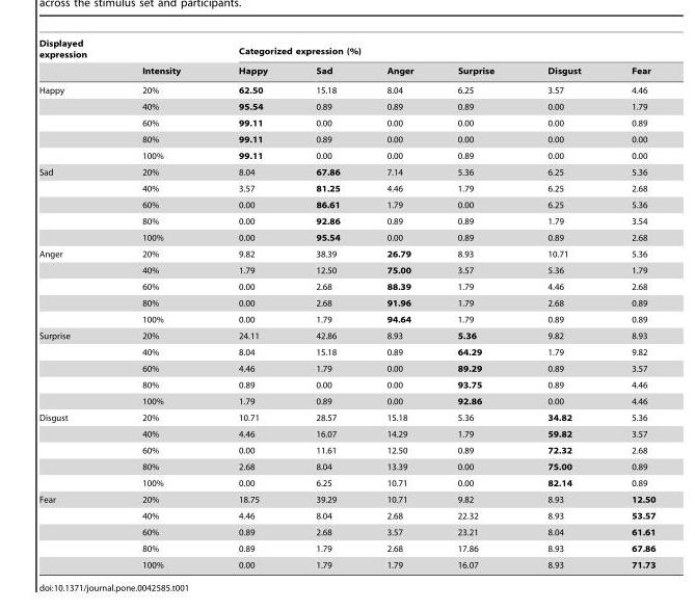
<table><thead><tr><td rowspan="2">Displayed expression</td><td rowspan="2">Intensity</td><td colspan="6">Categorized expression (%)</td></tr><tr><td>Happy</td><td>Sad</td><td>Anger</td><td>Surprise</td><td>Disgust</td><td>Fear</td></tr></thead><tbody><tr><td rowspan="5">Happy</td><td>20%</td><td>62.50</td><td>15.18</td><td>8.04</td><td>6.25</td><td>3.57</td><td>4.46</td></tr><tr><td>40%</td><td>95.54</td><td>0.89</td><td>0.89</td><td>0.89</td><td>0.00</td><td>1.79</td></tr><tr><td>60%</td><td>99.11</td><td>0.00</td><td>0.00</td><td>0.00</td><td>0.00</td><td>0.89</td></tr><tr><td>80%</td><td>99.11</td><td>0.89</td><td>0.00</td><td>0.00</td><td>0.00</td><td>0.00</td></tr><tr><td>100%</td><td>99.11</td><td>0.00</td><td>0.00</td><td>0.89</td><td>0.00</td><td>0.00</td></tr><tr><td rowspan="5">Sad</td><td>20%</td><td>8.04</td><td>67.86</td><td>7.14</td><td>5.36</td><td>6.25</td><td>5.36</td></tr><tr><td>40%</td><td>3.57</td><td>81.25</td><td>4.46</td><td>1.79</td><td>6.25</td><td>2.68</td></tr><tr><td>60%</td><td>0.00</td><td>86.61</td><td>1.79</td><td>0.00</td><td>6.25</td><td>5.36</td></tr><tr><td>80%</td><td>0.00</td><td>92.86</td><td>0.89</td><td>0.89</td><td>1.79</td><td>3.54</td></tr><tr><td>100%</td><td>0.00</td><td>95.54</td><td>0.00</td><td>0.89</td><td>0.89</td><td>2.68</td></tr><tr><td rowspan="5">Anger</td><td>20%</td><td>9.82</td><td>38.39</td><td>26.79</td><td>8.93</td><td>10.71</td><td>5.36</td></tr><tr><td>40%</td><td>1.79</td><td>12.50</td><td>75.00</td><td>3.57</td><td>5.36</td><td>1.79</td></tr><tr><td>60%</td><td>0.00</td><td>2.68</td><td>88.39</td><td>1.79</td><td>4.46</td><td>2.68</td></tr><tr><td>80%</td><td>0.00</td><td>2.68</td><td>91.96</td><td>1.79</td><td>2.68</td><td>0.89</td></tr><tr><td>100%</td><td>0.00</td><td>1.79</td><td>94.64</td><td>1.79</td><td>0.89</td><td>0.89</td></tr><tr><td rowspan="5">Surprise</td><td>20%</td><td>24.11</td><td>42.86</td><td>8.93</td><td>5.36</td><td>9.82</td><td>8.93</td></tr><tr><td>40%</td><td>8.04</td><td>15.18</td><td>0.89</td><td>64.29</td><td>1.79</td><td>9.82</td></tr><tr><td>60%</td><td>4.46</td><td>1.79</td><td>0.00</td><td>89.29</td><td>0.89</td><td>3.57</td></tr><tr><td>80%</td><td>0.89</td><td>0.00</td><td>0.00</td><td>93.75</td><td>0.89</td><td>4.46</td></tr><tr><td>100%</td><td>1.79</td><td>0.89</td><td>0.00</td><td>92.86</td><td>0.00</td><td>4.46</td></tr><tr><td rowspan="5">Disgust</td><td>20%</td><td>10.71</td><td>28.57</td><td>15.18</td><td>5.36</td><td>34.82</td><td>5.36</td></tr><tr><td>40%</td><td>4.46</td><td>16.07</td><td>14.29</td><td>1.79</td><td>59.82</td><td>3.57</td></tr><tr><td>60%</td><td>0.00</td><td>11.61</td><td>12.50</td><td>0.89</td><td>72.32</td><td>2.68</td></tr><tr><td>80%</td><td>2.68</td><td>8.04</td><td>13.39</td><td>0.00</td><td>75.00</td><td>0.89</td></tr><tr><td>100%</td><td>0.00</td><td>6.25</td><td>10.71</td><td>0.00</td><td>82.14</td><td>0.89</td></tr><tr><td rowspan="5">Fear</td><td>20%</td><td>18.75</td><td>39.29</td><td>10.71</td><td>9.82</td><td>8.93</td><td>12.50</td></tr><tr><td>40%</td><td>4.46</td><td>8.04</td><td>2.68</td><td>22.32</td><td>8.93</td><td>53.57</td></tr><tr><td>60%</td><td>0.89</td><td>2.68</td><td>3.57</td><td>23.21</td><td>8.04</td><td>61.61</td></tr><tr><td>80%</td><td>0.89</td><td>1.79</td><td>2.68</td><td>17.86</td><td>8.93</td><td>67.86</td></tr><tr><td>100%</td><td>0.00</td><td>1.79</td><td>1.79</td><td>16.07</td><td>8.93</td><td>71.73</td></tr></tbody></table>